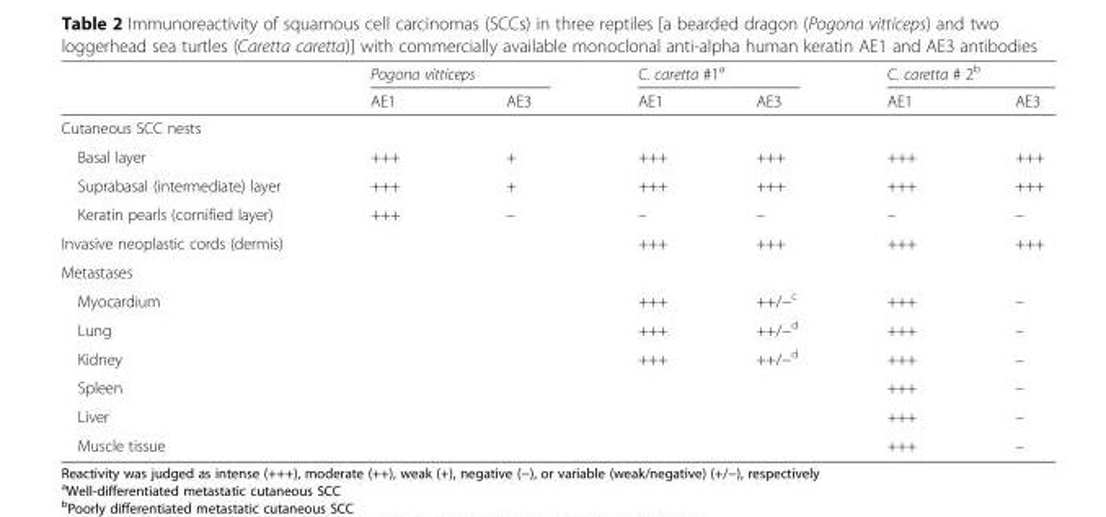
<table><thead><tr><td rowspan="2"></td><td colspan="2">Pogona vitticeps</td><td colspan="2">C. caretta #1<sup>a</sup></td><td colspan="2">C. caretta # 2<sup>b</sup></td></tr><tr><td>AE1</td><td>AE3</td><td>AE1</td><td>AE3</td><td>AE1</td><td>AE3</td></tr></thead><tbody><tr><td colspan="7">Cutaneous SCC nests</td></tr><tr><td>Basal layer</td><td>+++</td><td>+</td><td>+++</td><td>+++</td><td>+++</td><td>+++</td></tr><tr><td>Suprabasal (intermediate) layer</td><td>+++</td><td>+</td><td>+++</td><td>+++</td><td>+++</td><td>+++</td></tr><tr><td>Keratin pearls (cornified layer)</td><td>+++</td><td>–</td><td>–</td><td>–</td><td>–</td><td>–</td></tr><tr><td>Invasive neoplastic cords (dermis)</td><td></td><td></td><td>+++</td><td>+++</td><td>+++</td><td>+++</td></tr><tr><td colspan="7">Metastases</td></tr><tr><td>Myocardium</td><td></td><td></td><td>+++</td><td>++/−<sup>c</sup></td><td>+++</td><td>–</td></tr><tr><td>Lung</td><td></td><td></td><td>+++</td><td>++/−<sup>d</sup></td><td>+++</td><td>–</td></tr><tr><td>Kidney</td><td></td><td></td><td>+++</td><td>++/−<sup>d</sup></td><td>+++</td><td>–</td></tr><tr><td>Spleen</td><td></td><td></td><td></td><td></td><td>+++</td><td>–</td></tr><tr><td>Liver</td><td></td><td></td><td></td><td></td><td>+++</td><td>–</td></tr><tr><td>Muscle tissue</td><td></td><td></td><td></td><td></td><td>+++</td><td>–</td></tr></tbody></table>